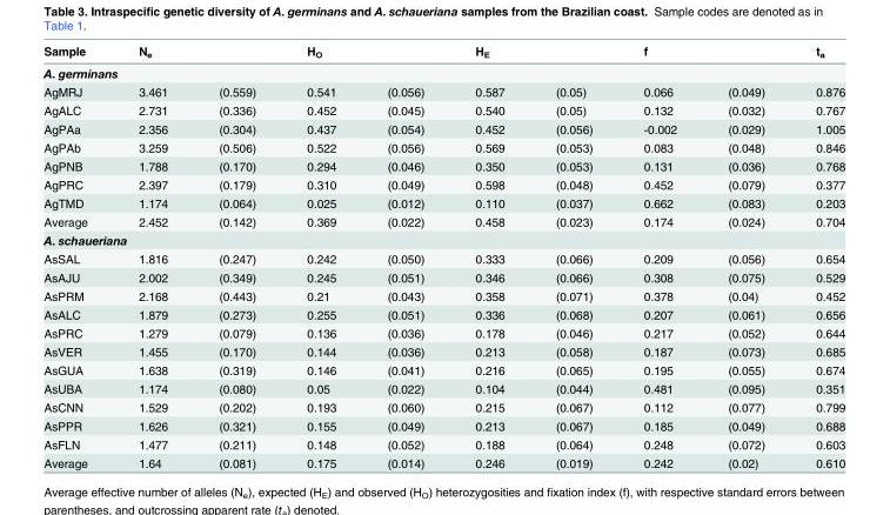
<table><thead><tr><td>Sample</td><td>N<sub>e</sub></td><td></td><td>H<sub>O</sub></td><td></td><td>H<sub>E</sub></td><td></td><td>f</td><td></td><td>t<sub>a</sub></td></tr></thead><tbody><tr><td colspan="10">A. germinans</td></tr><tr><td>AgMRJ</td><td>3.461</td><td>(0.559)</td><td>0.541</td><td>(0.056)</td><td>0.587</td><td>(0.05)</td><td>0.066</td><td>(0.049)</td><td>0.876</td></tr><tr><td>AgALC</td><td>2.731</td><td>(0.336)</td><td>0.452</td><td>(0.045)</td><td>0.540</td><td>(0.05)</td><td>0.132</td><td>(0.032)</td><td>0.767</td></tr><tr><td>AgPAa</td><td>2.356</td><td>(0.304)</td><td>0.437</td><td>(0.054)</td><td>0.452</td><td>(0.056)</td><td>-0.002</td><td>(0.029)</td><td>1.005</td></tr><tr><td>AgPAb</td><td>3.259</td><td>(0.506)</td><td>0.522</td><td>(0.056)</td><td>0.569</td><td>(0.053)</td><td>0.083</td><td>(0.048)</td><td>0.846</td></tr><tr><td>AgPNB</td><td>1.788</td><td>(0.170)</td><td>0.294</td><td>(0.046)</td><td>0.350</td><td>(0.053)</td><td>0.131</td><td>(0.036)</td><td>0.768</td></tr><tr><td>AgPRC</td><td>2.397</td><td>(0.179)</td><td>0.310</td><td>(0.049)</td><td>0.598</td><td>(0.048)</td><td>0.452</td><td>(0.079)</td><td>0.377</td></tr><tr><td>AgTMD</td><td>1.174</td><td>(0.064)</td><td>0.025</td><td>(0.012)</td><td>0.110</td><td>(0.037)</td><td>0.662</td><td>(0.083)</td><td>0.203</td></tr><tr><td>Average</td><td>2.452</td><td>(0.142)</td><td>0.369</td><td>(0.022)</td><td>0.458</td><td>(0.023)</td><td>0.174</td><td>(0.024)</td><td>0.704</td></tr><tr><td colspan="10">A. schaueriana</td></tr><tr><td>AsSAL</td><td>1.816</td><td>(0.247)</td><td>0.242</td><td>(0.050)</td><td>0.333</td><td>(0.066)</td><td>0.209</td><td>(0.056)</td><td>0.654</td></tr><tr><td>AsAJU</td><td>2.002</td><td>(0.349)</td><td>0.245</td><td>(0.051)</td><td>0.346</td><td>(0.066)</td><td>0.308</td><td>(0.075)</td><td>0.529</td></tr><tr><td>AsPRM</td><td>2.168</td><td>(0.443)</td><td>0.21</td><td>(0.043)</td><td>0.358</td><td>(0.071)</td><td>0.378</td><td>(0.04)</td><td>0.452</td></tr><tr><td>AsALC</td><td>1.879</td><td>(0.273)</td><td>0.255</td><td>(0.051)</td><td>0.336</td><td>(0.068)</td><td>0.207</td><td>(0.061)</td><td>0.656</td></tr><tr><td>AsPRC</td><td>1.279</td><td>(0.079)</td><td>0.136</td><td>(0.036)</td><td>0.178</td><td>(0.046)</td><td>0.217</td><td>(0.052)</td><td>0.644</td></tr><tr><td>AsVER</td><td>1.455</td><td>(0.170)</td><td>0.144</td><td>(0.036)</td><td>0.213</td><td>(0.058)</td><td>0.187</td><td>(0.073)</td><td>0.685</td></tr><tr><td>AsGUA</td><td>1.638</td><td>(0.319)</td><td>0.146</td><td>(0.041)</td><td>0.216</td><td>(0.065)</td><td>0.195</td><td>(0.055)</td><td>0.674</td></tr><tr><td>AsUBA</td><td>1.174</td><td>(0.080)</td><td>0.05</td><td>(0.022)</td><td>0.104</td><td>(0.044)</td><td>0.481</td><td>(0.095)</td><td>0.351</td></tr><tr><td>AsCNN</td><td>1.529</td><td>(0.202)</td><td>0.193</td><td>(0.060)</td><td>0.215</td><td>(0.067)</td><td>0.112</td><td>(0.077)</td><td>0.799</td></tr><tr><td>AsPPR</td><td>1.626</td><td>(0.321)</td><td>0.155</td><td>(0.049)</td><td>0.213</td><td>(0.067)</td><td>0.185</td><td>(0.049)</td><td>0.688</td></tr><tr><td>AsFLN</td><td>1.477</td><td>(0.211)</td><td>0.148</td><td>(0.052)</td><td>0.188</td><td>(0.064)</td><td>0.248</td><td>(0.072)</td><td>0.603</td></tr><tr><td>Average</td><td>1.64</td><td>(0.081)</td><td>0.175</td><td>(0.014)</td><td>0.246</td><td>(0.019)</td><td>0.242</td><td>(0.02)</td><td>0.610</td></tr></tbody></table>